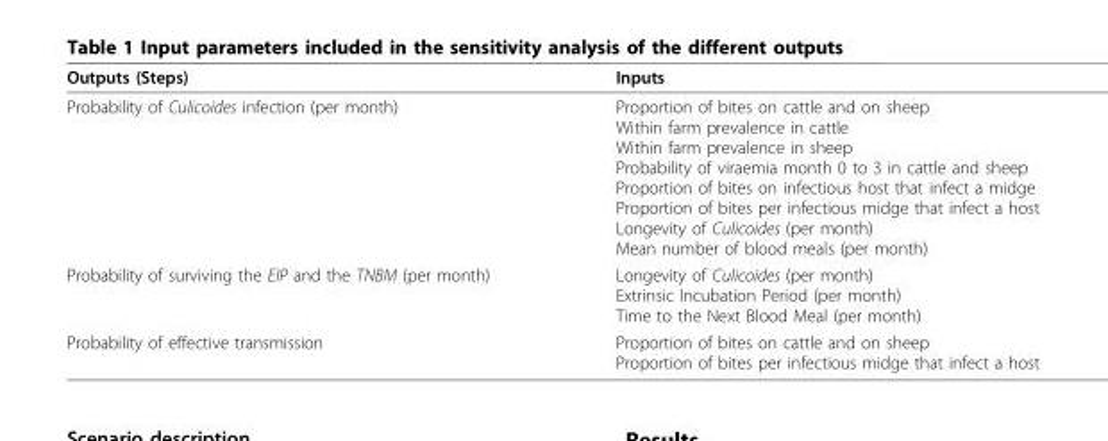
<table><thead><tr><td>Outputs (Steps)</td><td>Inputs</td></tr></thead><tbody><tr><td>Probability of Culicoides infection (per month)</td><td>Proportion of bites on cattle and on sheep Within farm prevalence in cattle Within farm prevalence in sheep Probability of viraemia month 0 to 3 in cattle and sheep Proportion of bites on infectious host that infect a midge Proportion of bites per infectious midge that infect a host Longevity of Culicoides (per month) Mean number of blood meals (per month)</td></tr><tr><td>Probability of surviving the EIP and the TNBM (per month)</td><td>Longevity of Culicoides (per month) Extrinsic Incubation Period (per month) Time to the Next Blood Meal (per month)</td></tr><tr><td>Probability of effective transmission</td><td>Proportion of bites on cattle and on sheep Proportion of bites per infectious midge that infect a host</td></tr></tbody></table>